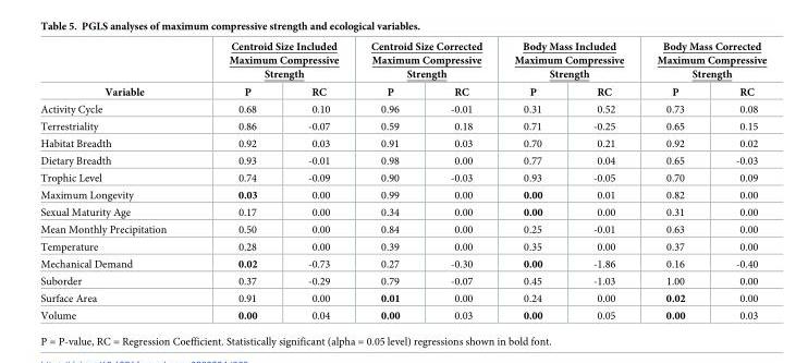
<table><thead><tr><td rowspan="2">Variable</td><td colspan="2">Centroid Size Included Maximum Compressive Strength</td><td colspan="2">Centroid Size Corrected Maximum Compressive Strength</td><td colspan="2">Body Mass Included Maximum Compressive Strength</td><td colspan="2">Body Mass Corrected Maximum Compressive Strength</td></tr><tr><td>P</td><td>RC</td><td>P</td><td>RC</td><td>P</td><td>RC</td><td>P</td><td>RC</td></tr></thead><tbody><tr><td>Activity Cycle</td><td>0.68</td><td>0.10</td><td>0.96</td><td>-0.01</td><td>0.31</td><td>0.52</td><td>0.73</td><td>0.08</td></tr><tr><td>Terrestriality</td><td>0.86</td><td>-0.07</td><td>0.59</td><td>0.18</td><td>0.71</td><td>-0.25</td><td>0.65</td><td>0.15</td></tr><tr><td>Habitat Breadth</td><td>0.92</td><td>0.03</td><td>0.91</td><td>0.03</td><td>0.70</td><td>0.21</td><td>0.92</td><td>0.02</td></tr><tr><td>Dietary Breadth</td><td>0.93</td><td>-0.01</td><td>0.98</td><td>0.00</td><td>0.77</td><td>0.04</td><td>0.65</td><td>-0.03</td></tr><tr><td>Trophic Level</td><td>0.74</td><td>-0.09</td><td>0.90</td><td>-0.03</td><td>0.93</td><td>-0.05</td><td>0.70</td><td>0.09</td></tr><tr><td>Maximum Longevity</td><td>0.03</td><td>0.00</td><td>0.99</td><td>0.00</td><td>0.00</td><td>0.01</td><td>0.82</td><td>0.00</td></tr><tr><td>Sexual Maturity Age</td><td>0.17</td><td>0.00</td><td>0.34</td><td>0.00</td><td>0.00</td><td>0.00</td><td>0.31</td><td>0.00</td></tr><tr><td>Mean Monthly Precipitation</td><td>0.50</td><td>0.00</td><td>0.84</td><td>0.00</td><td>0.25</td><td>-0.01</td><td>0.63</td><td>0.00</td></tr><tr><td>Temperature</td><td>0.28</td><td>0.00</td><td>0.39</td><td>0.00</td><td>0.35</td><td>0.00</td><td>0.37</td><td>0.00</td></tr><tr><td>Mechanical Demand</td><td>0.02</td><td>-0.73</td><td>0.27</td><td>-0.30</td><td>0.00</td><td>-1.86</td><td>0.16</td><td>-0.40</td></tr><tr><td>Suborder</td><td>0.37</td><td>-0.29</td><td>0.79</td><td>-0.07</td><td>0.45</td><td>-1.03</td><td>1.00</td><td>0.00</td></tr><tr><td>Surface Area</td><td>0.91</td><td>0.00</td><td>0.01</td><td>0.00</td><td>0.24</td><td>0.00</td><td>0.02</td><td>0.00</td></tr><tr><td>Volume</td><td>0.00</td><td>0.04</td><td>0.00</td><td>0.03</td><td>0.00</td><td>0.05</td><td>0.00</td><td>0.03</td></tr></tbody></table>